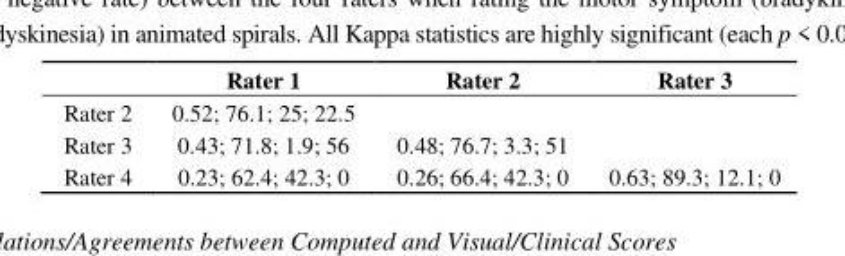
<table><thead><tr><td></td><td>Rater 1</td><td>Rater 2</td><td>Rater 3</td></tr></thead><tbody><tr><td>Rater 2</td><td>0.52; 76.1; 25; 22.5</td><td></td><td></td></tr><tr><td>Rater 3</td><td>0.43; 71.8; 1.9; 56</td><td>0.48; 76.7; 3.3; 51</td><td></td></tr><tr><td>Rater 4</td><td>0.23; 62.4; 42.3; 0</td><td>0.26; 66.4; 42.3; 0</td><td>0.63; 89.3; 12.1; 0</td></tr></tbody></table>